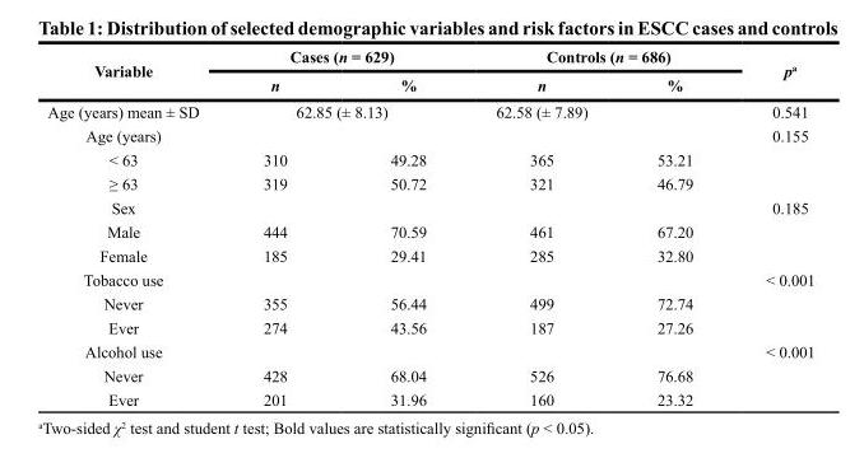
<table><thead><tr><td rowspan="2">Variable</td><td colspan="2">Cases (n = 629)</td><td colspan="2">Controls (n = 686)</td><td rowspan="2">p<sup>a</sup></td></tr><tr><td>n</td><td>%</td><td>n</td><td>%</td></tr></thead><tbody><tr><td>Age (years) mean ± SD</td><td colspan="2">62.85 (± 8.13)</td><td>62.58 (± 7.89)</td><td></td><td>0.541</td></tr><tr><td>Age (years)</td><td></td><td></td><td></td><td></td><td>0.155</td></tr><tr><td>&lt; 63</td><td>310</td><td>49.28</td><td>365</td><td>53.21</td><td></td></tr><tr><td>≥ 63</td><td>319</td><td>50.72</td><td>321</td><td>46.79</td><td></td></tr><tr><td>Sex</td><td></td><td></td><td></td><td></td><td>0.185</td></tr><tr><td>Male</td><td>444</td><td>70.59</td><td>461</td><td>67.20</td><td></td></tr><tr><td>Female</td><td>185</td><td>29.41</td><td>285</td><td>32.80</td><td></td></tr><tr><td>Tobacco use</td><td></td><td></td><td></td><td></td><td>&lt; 0.001</td></tr><tr><td>Never</td><td>355</td><td>56.44</td><td>499</td><td>72.74</td><td></td></tr><tr><td>Ever</td><td>274</td><td>43.56</td><td>187</td><td>27.26</td><td></td></tr><tr><td>Alcohol use</td><td></td><td></td><td></td><td></td><td>&lt; 0.001</td></tr><tr><td>Never</td><td>428</td><td>68.04</td><td>526</td><td>76.68</td><td></td></tr><tr><td>Ever</td><td>201</td><td>31.96</td><td>160</td><td>23.32</td><td></td></tr></tbody></table>